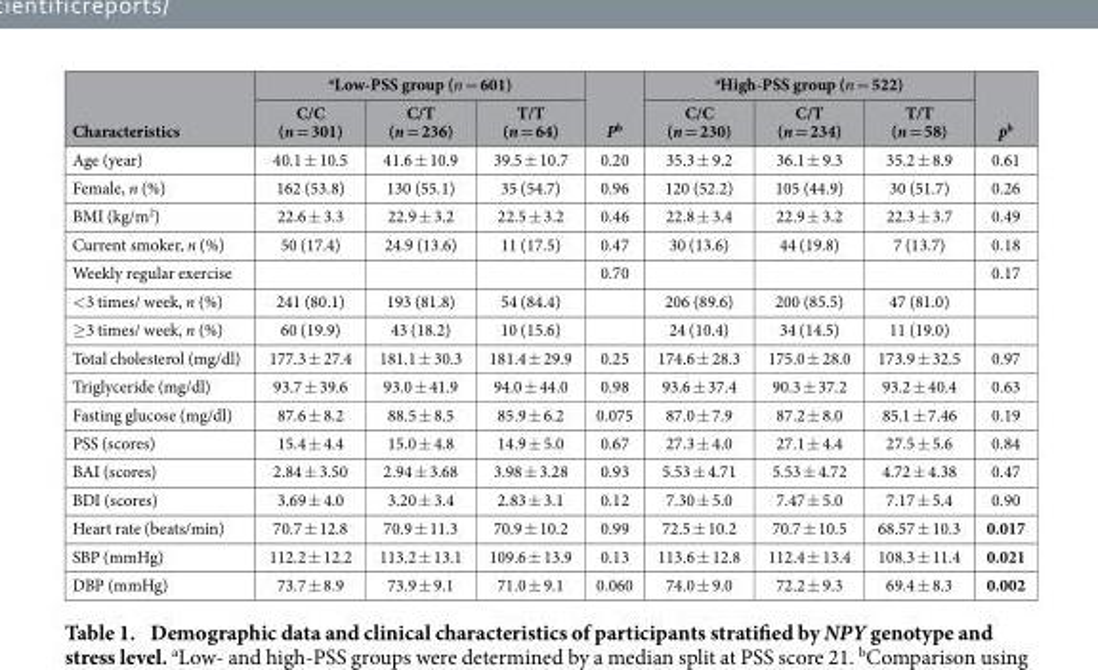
<table><thead><tr><td rowspan="2">Characteristics</td><td colspan="3">aLow-PSS group (n = 601)</td><td rowspan="2">P<sup>b</sup></td><td colspan="3">aHigh-PSS group (n = 522)</td><td rowspan="2">p<sup>b</sup></td></tr><tr><td>C/C (n = 301)</td><td>C/T (n = 236)</td><td>T/T (n = 64)</td><td>C/C (n = 230)</td><td>C/T (n = 234)</td><td>T/T (n = 58)</td></tr></thead><tbody><tr><td>Age (year)</td><td>40.1 ± 10.5</td><td>41.6 ± 10.9</td><td>39.5 ± 10.7</td><td>0.20</td><td>35.3 ± 9.2</td><td>36.1 ± 9.3</td><td>35.2 ± 8.9</td><td>0.61</td></tr><tr><td>Female, n (%)</td><td>162 (53.8)</td><td>130 (55.1)</td><td>35 (54.7)</td><td>0.96</td><td>120 (52.2)</td><td>105 (44.9)</td><td>30 (51.7)</td><td>0.26</td></tr><tr><td>BMI (kg/m<sup>2</sup>)</td><td>22.6 ± 3.3</td><td>22.9 ± 3.2</td><td>22.5 ± 3.2</td><td>0.46</td><td>22.8 ± 3.4</td><td>22.9 ± 3.2</td><td>22.3 ± 3.7</td><td>0.49</td></tr><tr><td>Current smoker, n (%)</td><td>50 (17.4)</td><td>24.9 (13.6)</td><td>11 (17.5)</td><td>0.47</td><td>30 (13.6)</td><td>44 (19.8)</td><td>7 (13.7)</td><td>0.18</td></tr><tr><td>Weekly regular exercise</td><td></td><td></td><td></td><td>0.70</td><td></td><td></td><td></td><td>0.17</td></tr><tr><td>&lt; 3 times/ week, n (%)</td><td>241 (80.1)</td><td>193 (81.8)</td><td>54 (84.4)</td><td></td><td>206 (89.6)</td><td>200 (85.5)</td><td>47 (81.0)</td><td></td></tr><tr><td>≥ 3 times/ week, n (%)</td><td>60 (19.9)</td><td>43 (18.2)</td><td>10 (15.6)</td><td></td><td>24 (10.4)</td><td>34 (14.5)</td><td>11 (19.0)</td><td></td></tr><tr><td>Total cholesterol (mg/dl)</td><td>177.3 ± 27.4</td><td>181.1 ± 30.3</td><td>181.4 ± 29.9</td><td>0.25</td><td>174.6 ± 28.3</td><td>175.0 ± 28.0</td><td>173.9 ± 32.5</td><td>0.97</td></tr><tr><td>Triglyceride (mg/dl)</td><td>93.7 ± 39.6</td><td>93.0 ± 41.9</td><td>94.0 ± 44.0</td><td>0.98</td><td>93.6 ± 37.4</td><td>90.3 ± 37.2</td><td>93.2 ± 40.4</td><td>0.63</td></tr><tr><td>Fasting glucose (mg/dl)</td><td>87.6 ± 8.2</td><td>88.5 ± 8.5</td><td>85.9 ± 6.2</td><td>0.075</td><td>87.0 ± 7.9</td><td>87.2 ± 8.0</td><td>85.1 ± 7.46</td><td>0.19</td></tr><tr><td>PSS (scores)</td><td>15.4 ± 4.4</td><td>15.0 ± 4.8</td><td>14.9 ± 5.0</td><td>0.67</td><td>27.3 ± 4.0</td><td>27.1 ± 4.4</td><td>27.5 ± 5.6</td><td>0.84</td></tr><tr><td>BAI (scores)</td><td>2.84 ± 3.50</td><td>2.94 ± 3.68</td><td>3.98 ± 3.28</td><td>0.93</td><td>5.53 ± 4.71</td><td>5.53 ± 4.72</td><td>4.72 ± 4.38</td><td>0.47</td></tr><tr><td>BDI (scores)</td><td>3.69 ± 4.0</td><td>3.20 ± 3.4</td><td>2.83 ± 3.1</td><td>0.12</td><td>7.30 ± 5.0</td><td>7.47 ± 5.0</td><td>7.17 ± 5.4</td><td>0.90</td></tr><tr><td>Heart rate (beats/min)</td><td>70.7 ± 12.8</td><td>70.9 ± 11.3</td><td>70.9 ± 10.2</td><td>0.99</td><td>72.5 ± 10.2</td><td>70.7 ± 10.5</td><td>68.57 ± 10.3</td><td>0.017</td></tr><tr><td>SBP (mmHg)</td><td>112.2 ± 12.2</td><td>113.2 ± 13.1</td><td>109.6 ± 13.9</td><td>0.13</td><td>113.6 ± 12.8</td><td>112.4 ± 13.4</td><td>108.3 ± 11.4</td><td>0.021</td></tr><tr><td>DBP (mmHg)</td><td>73.7 ± 8.9</td><td>73.9 ± 9.1</td><td>71.0 ± 9.1</td><td>0.060</td><td>74.0 ± 9.0</td><td>72.2 ± 9.3</td><td>69.4 ± 8.3</td><td>0.002</td></tr></tbody></table>